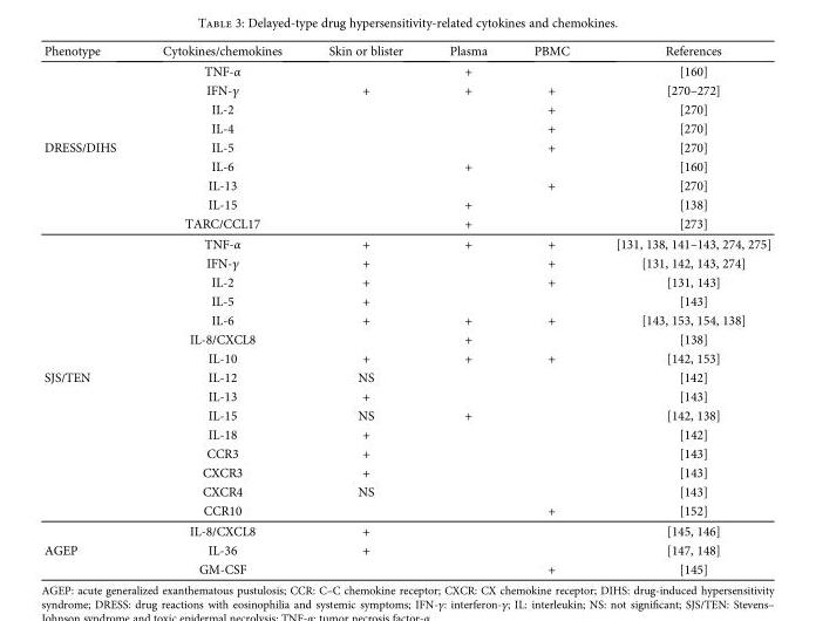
<table><thead><tr><td>Phenotype</td><td>Cytokines/chemokines</td><td>Skin or blister</td><td>Plasma</td><td>PBMC</td><td>References</td></tr></thead><tbody><tr><td rowspan="9">DRESS/DIHS</td><td>TNF-α</td><td></td><td>+</td><td></td><td>[160]</td></tr><tr><td>IFN-γ</td><td>+</td><td>+</td><td>+</td><td>[270–272]</td></tr><tr><td>IL-2</td><td></td><td></td><td>+</td><td>[270]</td></tr><tr><td>IL-4</td><td></td><td></td><td>+</td><td>[270]</td></tr><tr><td>IL-5</td><td></td><td></td><td>+</td><td>[270]</td></tr><tr><td>IL-6</td><td></td><td>+</td><td></td><td>[160]</td></tr><tr><td>IL-13</td><td></td><td></td><td>+</td><td>[270]</td></tr><tr><td>IL-15</td><td></td><td>+</td><td></td><td>[138]</td></tr><tr><td>TARC/CCL17</td><td></td><td>+</td><td></td><td>[273]</td></tr><tr><td rowspan="15">SJS/TEN</td><td>TNF-α</td><td>+</td><td>+</td><td>+</td><td>[131, 138, 141–143, 274, 275]</td></tr><tr><td>IFN-γ</td><td>+</td><td></td><td>+</td><td>[131, 142, 143, 274]</td></tr><tr><td>IL-2</td><td>+</td><td></td><td>+</td><td>[131, 143]</td></tr><tr><td>IL-5</td><td>+</td><td></td><td></td><td>[143]</td></tr><tr><td>IL-6</td><td>+</td><td>+</td><td>+</td><td>[143, 153, 154, 138]</td></tr><tr><td>IL-8/CXCL8</td><td></td><td>+</td><td></td><td>[138]</td></tr><tr><td>IL-10</td><td>+</td><td>+</td><td>+</td><td>[142, 153]</td></tr><tr><td>IL-12</td><td>NS</td><td></td><td></td><td>[142]</td></tr><tr><td>IL-13</td><td>+</td><td></td><td></td><td>[143]</td></tr><tr><td>IL-15</td><td>NS</td><td>+</td><td></td><td>[142, 138]</td></tr><tr><td>IL-18</td><td>+</td><td></td><td></td><td>[142]</td></tr><tr><td>CCR3</td><td>+</td><td></td><td></td><td>[143]</td></tr><tr><td>CXCR3</td><td>+</td><td></td><td></td><td>[143]</td></tr><tr><td>CXCR4</td><td>NS</td><td></td><td></td><td>[143]</td></tr><tr><td>CCR10</td><td></td><td></td><td>+</td><td>[152]</td></tr><tr><td rowspan="3">AGEP</td><td>IL-8/CXCL8</td><td>+</td><td></td><td></td><td>[145, 146]</td></tr><tr><td>IL-36</td><td>+</td><td></td><td></td><td>[147, 148]</td></tr><tr><td>GM-CSF</td><td></td><td></td><td>+</td><td>[145]</td></tr></tbody></table>